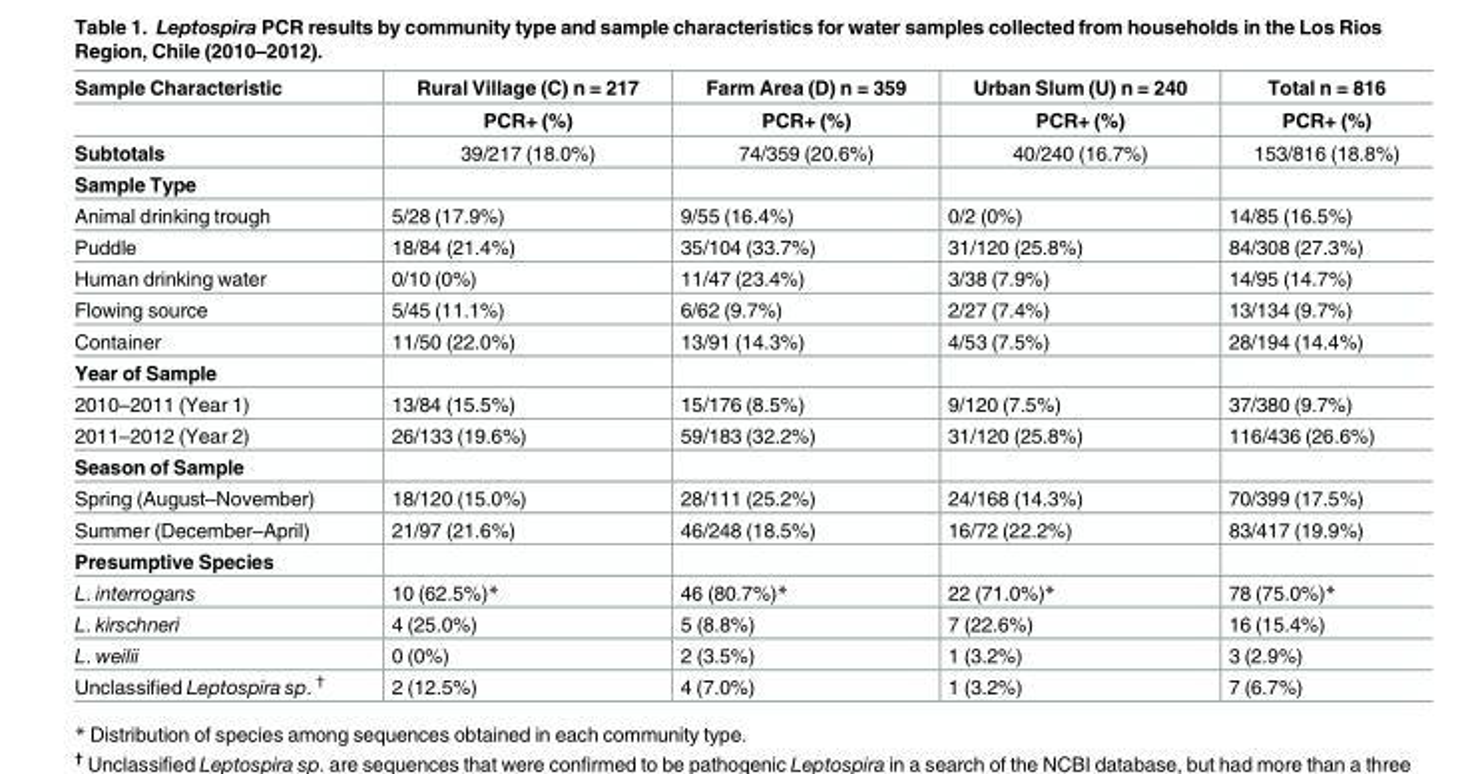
<table><thead><tr><td rowspan="2">Sample Characteristic</td><td rowspan="2">Rural Village (C) n = 217 PCR+ (%)</td><td rowspan="2">Farm Area (D) n = 359 PCR+ (%)</td><td rowspan="2">Urban Slum (U) n = 240 PCR+ (%)</td><td rowspan="2">Total n = 816 PCR+ (%)</td></tr><tr></tr></thead><tbody><tr><td>Subtotals</td><td>39/217 (18.0%)</td><td>74/359 (20.6%)</td><td>40/240 (16.7%)</td><td>153/816 (18.8%)</td></tr><tr><td colspan="5">Sample Type</td></tr><tr><td>Animal drinking trough</td><td>5/28 (17.9%)</td><td>9/55 (16.4%)</td><td>0/2 (0%)</td><td>14/85 (16.5%)</td></tr><tr><td>Puddle</td><td>18/84 (21.4%)</td><td>35/104 (33.7%)</td><td>31/120 (25.8%)</td><td>84/308 (27.3%)</td></tr><tr><td>Human drinking water</td><td>0/10 (0%)</td><td>11/47 (23.4%)</td><td>3/38 (7.9%)</td><td>14/95 (14.7%)</td></tr><tr><td>Flowing source</td><td>5/45 (11.1%)</td><td>6/62 (9.7%)</td><td>2/27 (7.4%)</td><td>13/134 (9.7%)</td></tr><tr><td>Container</td><td>11/50 (22.0%)</td><td>13/91 (14.3%)</td><td>4/53 (7.5%)</td><td>28/194 (14.4%)</td></tr><tr><td colspan="5">Year of Sample</td></tr><tr><td>2010–2011 (Year 1)</td><td>13/84 (15.5%)</td><td>15/176 (8.5%)</td><td>9/120 (7.5%)</td><td>37/380 (9.7%)</td></tr><tr><td>2011–2012 (Year 2)</td><td>26/133 (19.6%)</td><td>59/183 (32.2%)</td><td>31/120 (25.8%)</td><td>116/436 (26.6%)</td></tr><tr><td colspan="5">Season of Sample</td></tr><tr><td>Spring (August–November)</td><td>18/120 (15.0%)</td><td>28/111 (25.2%)</td><td>24/168 (14.3%)</td><td>70/399 (17.5%)</td></tr><tr><td>Summer (December–April)</td><td>21/97 (21.6%)</td><td>46/248 (18.5%)</td><td>16/72 (22.2%)</td><td>83/417 (19.9%)</td></tr><tr><td colspan="5">Presumptive Species</td></tr><tr><td>L. interrogans</td><td>10 (62.5%)*</td><td>46 (80.7%)*</td><td>22 (71.0%)*</td><td>78 (75.0%)*</td></tr><tr><td>L. kirschneri</td><td>4 (25.0%)</td><td>5 (8.8%)</td><td>7 (22.6%)</td><td>16 (15.4%)</td></tr><tr><td>L. weilii</td><td>0 (0%)</td><td>2 (3.5%)</td><td>1 (3.2%)</td><td>3 (2.9%)</td></tr><tr><td>Unclassified Leptospira sp. <sup>†</sup></td><td>2 (12.5%)</td><td>4 (7.0%)</td><td>1 (3.2%)</td><td>7 (6.7%)</td></tr></tbody></table>